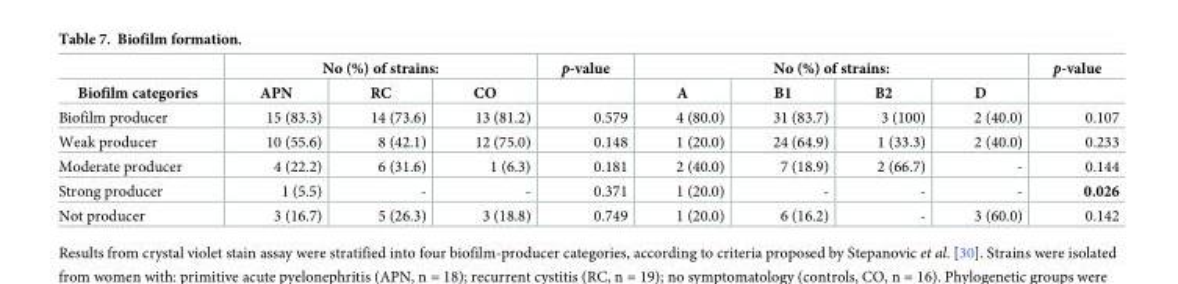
<table><thead><tr><td rowspan="2">Biofilm categories</td><td colspan="3">No (%) of strains:</td><td rowspan="2">p-value</td><td colspan="4">No (%) of strains:</td><td rowspan="2">p-value</td></tr><tr><td>APN</td><td>RC</td><td>CO</td><td>A</td><td>B1</td><td>B2</td><td>D</td></tr></thead><tbody><tr><td>Biofilm producer</td><td>15 (83.3)</td><td>14 (73.6)</td><td>13 (81.2)</td><td>0.579</td><td>4 (80.0)</td><td>31 (83.7)</td><td>3 (100)</td><td>2 (40.0)</td><td>0.107</td></tr><tr><td>Weak producer</td><td>10 (55.6)</td><td>8 (42.1)</td><td>12 (75.0)</td><td>0.148</td><td>1 (20.0)</td><td>24 (64.9)</td><td>1 (33.3)</td><td>2 (40.0)</td><td>0.233</td></tr><tr><td>Moderate producer</td><td>4 (22.2)</td><td>6 (31.6)</td><td>1 (6.3)</td><td>0.181</td><td>2 (40.0)</td><td>7 (18.9)</td><td>2 (66.7)</td><td>-</td><td>0.144</td></tr><tr><td>Strong producer</td><td>1 (5.5)</td><td>-</td><td>-</td><td>0.371</td><td>1 (20.0)</td><td>-</td><td>-</td><td>-</td><td>0.026</td></tr><tr><td>Not producer</td><td>3 (16.7)</td><td>5 (26.3)</td><td>3 (18.8)</td><td>0.749</td><td>1 (20.0)</td><td>6 (16.2)</td><td>-</td><td>3 (60.0)</td><td>0.142</td></tr></tbody></table>